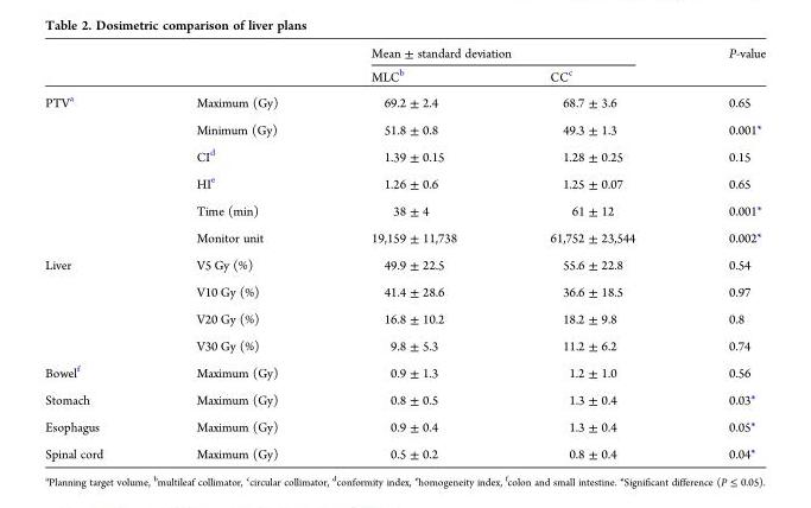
<table><thead><tr><td rowspan="2"></td><td rowspan="2"></td><td colspan="2">Mean ± standard deviation</td><td rowspan="2">P-value</td></tr><tr><td>MLC<sup>b</sup></td><td>CC<sup>c</sup></td></tr></thead><tbody><tr><td rowspan="6">PTV<sup>a</sup></td><td>Maximum (Gy)</td><td>69.2 ± 2.4</td><td>68.7 ± 3.6</td><td>0.65</td></tr><tr><td>Minimum (Gy)</td><td>51.8 ± 0.8</td><td>49.3 ± 1.3</td><td>0.001*</td></tr><tr><td>CI<sup>d</sup></td><td>1.39 ± 0.15</td><td>1.28 ± 0.25</td><td>0.15</td></tr><tr><td>HI<sup>e</sup></td><td>1.26 ± 0.6</td><td>1.25 ± 0.07</td><td>0.65</td></tr><tr><td>Time (min)</td><td>38 ± 4</td><td>61 ± 12</td><td>0.001*</td></tr><tr><td>Monitor unit</td><td>19,159 ± 11,738</td><td>61,752 ± 23,544</td><td>0.002*</td></tr><tr><td rowspan="4">Liver</td><td>V5 Gy (%)</td><td>49.9 ± 22.5</td><td>55.6 ± 22.8</td><td>0.54</td></tr><tr><td>V10 Gy (%)</td><td>41.4 ± 28.6</td><td>36.6 ± 18.5</td><td>0.97</td></tr><tr><td>V20 Gy (%)</td><td>16.8 ± 10.2</td><td>18.2 ± 9.8</td><td>0.8</td></tr><tr><td>V30 Gy (%)</td><td>9.8 ± 5.3</td><td>11.2 ± 6.2</td><td>0.74</td></tr><tr><td>Bowel<sup>f</sup></td><td>Maximum (Gy)</td><td>0.9 ± 1.3</td><td>1.2 ± 1.0</td><td>0.56</td></tr><tr><td>Stomach</td><td>Maximum (Gy)</td><td>0.8 ± 0.5</td><td>1.3 ± 0.4</td><td>0.03*</td></tr><tr><td>Esophagus</td><td>Maximum (Gy)</td><td>0.9 ± 0.4</td><td>1.3 ± 0.4</td><td>0.05*</td></tr><tr><td>Spinal cord</td><td>Maximum (Gy)</td><td>0.5 ± 0.2</td><td>0.8 ± 0.4</td><td>0.04*</td></tr></tbody></table>